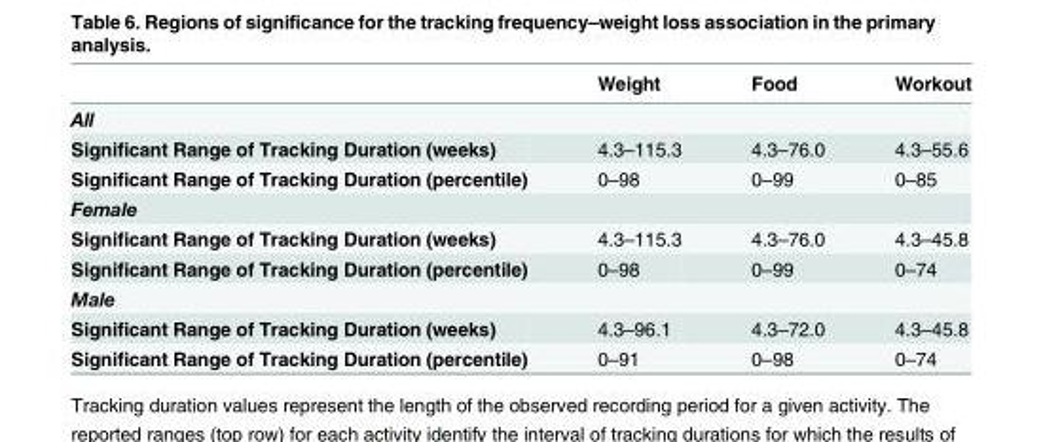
<table><thead><tr><td></td><td>Weight</td><td>Food</td><td>Workout</td></tr></thead><tbody><tr><td colspan="4">All</td></tr><tr><td>Significant Range of Tracking Duration (weeks)</td><td>4.3–115.3</td><td>4.3–76.0</td><td>4.3–55.6</td></tr><tr><td>Significant Range of Tracking Duration (percentile)</td><td>0–98</td><td>0–99</td><td>0–85</td></tr><tr><td colspan="4">Female</td></tr><tr><td>Significant Range of Tracking Duration (weeks)</td><td>4.3–115.3</td><td>4.3–76.0</td><td>4.3–45.8</td></tr><tr><td>Significant Range of Tracking Duration (percentile)</td><td>0–98</td><td>0–99</td><td>0–74</td></tr><tr><td colspan="4">Male</td></tr><tr><td>Significant Range of Tracking Duration (weeks)</td><td>4.3–96.1</td><td>4.3–72.0</td><td>4.3–45.8</td></tr><tr><td>Significant Range of Tracking Duration (percentile)</td><td>0–91</td><td>0–98</td><td>0–74</td></tr></tbody></table>